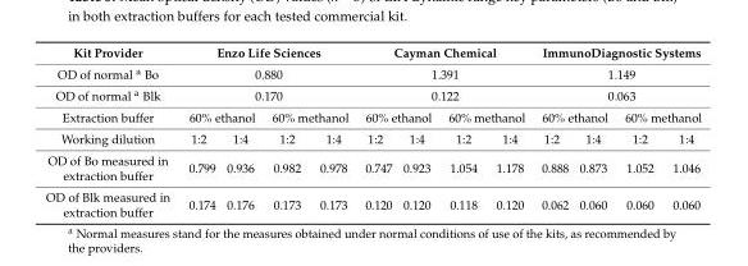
<table><thead><tr><td>Kit Provider</td><td colspan="4">Enzo Life Sciences</td><td colspan="4">Cayman Chemical</td><td colspan="4">ImmunoDiagnostic Systems</td></tr></thead><tbody><tr><td>OD of normal <sup>a</sup> Bo</td><td colspan="4">0.880</td><td colspan="4">1.391</td><td colspan="4">1.149</td></tr><tr><td>OD of normal <sup>a</sup> Blk</td><td colspan="4">0.170</td><td colspan="4">0.122</td><td colspan="4">0.063</td></tr><tr><td>Extraction buffer</td><td colspan="2">60% ethanol</td><td colspan="2">60% methanol</td><td colspan="2">60% ethanol</td><td colspan="2">60% methanol</td><td colspan="2">60% ethanol</td><td colspan="2">60% methanol</td></tr><tr><td>Working dilution</td><td>1:2</td><td>1:4</td><td>1:2</td><td>1:4</td><td>1:2</td><td>1:4</td><td>1:2</td><td>1:4</td><td>1:2</td><td>1:4</td><td>1:2</td><td>1:4</td></tr><tr><td>OD of Bo measured in extraction buffer</td><td>0.799</td><td>0.936</td><td>0.982</td><td>0.978</td><td>0.747</td><td>0.923</td><td>1.054</td><td>1.178</td><td>0.888</td><td>0.873</td><td>1.052</td><td>1.046</td></tr><tr><td>OD of Blk measured in extraction buffer</td><td>0.174</td><td>0.176</td><td>0.173</td><td>0.173</td><td>0.120</td><td>0.120</td><td>0.118</td><td>0.120</td><td>0.062</td><td>0.060</td><td>0.060</td><td>0.060</td></tr></tbody></table>